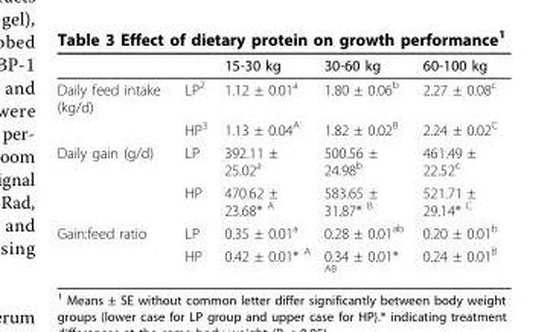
<table><thead><tr><td></td><td></td><td>15-30 kg</td><td>30-60 kg</td><td>60-100 kg</td></tr></thead><tbody><tr><td rowspan="2">Daily feed intake (kg/d)</td><td>LP<sup>2</sup></td><td>1.12 ± 0.01<sup>a</sup></td><td>1.80 ± 0.06<sup>b</sup></td><td>2.27 ± 0.08<sup>c</sup></td></tr><tr><td>HP<sup>3</sup></td><td>1.13 ± 0.04<sup>A</sup></td><td>1.82 ± 0.02<sup>B</sup></td><td>2.24 ± 0.02<sup>C</sup></td></tr><tr><td rowspan="2">Daily gain (g/d)</td><td>LP</td><td>392.11 ± 25.02<sup>a</sup></td><td>500.56 ± 24.98<sup>b</sup></td><td>461.49 ± 22.52<sup>c</sup></td></tr><tr><td>HP</td><td>470.62 ± 23.68* <sup>A</sup></td><td>583.65 ± 31.87* <sup>B</sup></td><td>521.71 ± 29.14* <sup>C</sup></td></tr><tr><td rowspan="2">Gain:feed ratio</td><td>LP</td><td>0.35 ± 0.01<sup>a</sup></td><td>0.28 ± 0.01<sup>ab</sup></td><td>0.20 ± 0.01<sup>b</sup></td></tr><tr><td>HP</td><td>0.42 ± 0.01* <sup>A</sup></td><td>0.34 ± 0.01* <sup>AB</sup></td><td>0.24 ± 0.01<sup>B</sup></td></tr></tbody></table>